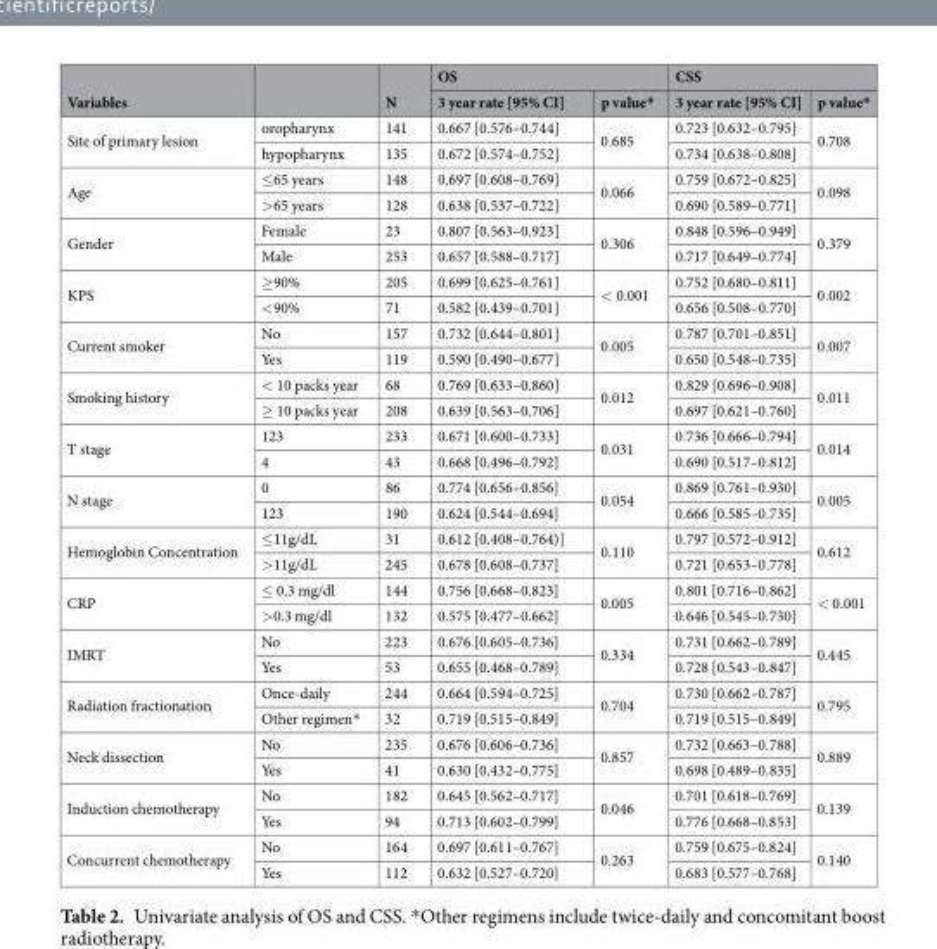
<table><thead><tr><td rowspan="2">Variables</td><td rowspan="2"></td><td rowspan="2">N</td><td colspan="2">OS</td><td colspan="2">CSS</td></tr><tr><td>3 year rate [95% CI]</td><td>p value*</td><td>3 year rate [95% CI]</td><td>p value*</td></tr></thead><tbody><tr><td rowspan="2">Site of primary lesion</td><td>oropharynx</td><td>141</td><td>0.667 [0.576–0.744]</td><td rowspan="2">0.685</td><td>0.723 [0.632–0.795]</td><td rowspan="2">0.708</td></tr><tr><td>hypopharynx</td><td>135</td><td>0.672 [0.574–0.752]</td><td>0.734 [0.638–0.808]</td></tr><tr><td rowspan="2">Age</td><td>≤65 years</td><td>148</td><td>0.697 [0.608–0.769]</td><td rowspan="2">0.066</td><td>0.759 [0.672–0.825]</td><td rowspan="2">0.098</td></tr><tr><td>&gt;65 years</td><td>128</td><td>0.638 [0.537–0.722]</td><td>0.690 [0.589–0.771]</td></tr><tr><td rowspan="2">Gender</td><td>Female</td><td>23</td><td>0.807 [0.563–0.923]</td><td rowspan="2">0.306</td><td>0.848 [0.596–0.949]</td><td rowspan="2">0.379</td></tr><tr><td>Male</td><td>253</td><td>0.657 [0.588–0.717]</td><td>0.717 [0.649–0.774]</td></tr><tr><td rowspan="2">KPS</td><td>≥90%</td><td>205</td><td>0.699 [0.625–0.761]</td><td rowspan="2">&lt; 0.001</td><td>0.752 [0.680–0.811]</td><td rowspan="2">0.002</td></tr><tr><td>&lt;90%</td><td>71</td><td>0.582 [0.439–0.701]</td><td>0.656 [0.508–0.770]</td></tr><tr><td rowspan="2">Current smoker</td><td>No</td><td>157</td><td>0.732 [0.644–0.801]</td><td rowspan="2">0.005</td><td>0.787 [0.701–0.851]</td><td rowspan="2">0.007</td></tr><tr><td>Yes</td><td>119</td><td>0.590 [0.490–0.677]</td><td>0.650 [0.548–0.735]</td></tr><tr><td rowspan="2">Smoking history</td><td>&lt; 10 packs year</td><td>68</td><td>0.769 [0.633–0.860]</td><td rowspan="2">0.012</td><td>0.829 [0.696–0.908]</td><td rowspan="2">0.011</td></tr><tr><td>≥ 10 packs year</td><td>208</td><td>0.639 [0.563–0.706]</td><td>0.697 [0.621–0.760]</td></tr><tr><td rowspan="2">T stage</td><td>123</td><td>233</td><td>0.671 [0.600–0.733]</td><td rowspan="2">0.031</td><td>0.736 [0.666–0.794]</td><td rowspan="2">0.014</td></tr><tr><td>4</td><td>43</td><td>0.668 [0.496–0.792]</td><td>0.690 [0.517–0.812]</td></tr><tr><td rowspan="2">N stage</td><td>0</td><td>86</td><td>0.774 [0.656–0.856]</td><td rowspan="2">0.054</td><td>0.869 [0.761–0.930]</td><td rowspan="2">0.005</td></tr><tr><td>123</td><td>190</td><td>0.624 [0.544–0.694]</td><td>0.666 [0.585–0.735]</td></tr><tr><td rowspan="2">Hemoglobin Concentration</td><td>≤11g/dL</td><td>31</td><td>0.612 [0.408–0.764)]</td><td rowspan="2">0.110</td><td>0.797 [0.572–0.912]</td><td rowspan="2">0.612</td></tr><tr><td>&gt;11g/dL</td><td>245</td><td>0.678 [0.608–0.737]</td><td>0.721 [0.653–0.778]</td></tr><tr><td rowspan="2">CRP</td><td>≤ 0.3 mg/dl</td><td>144</td><td>0.756 [0.668–0.823]</td><td rowspan="2">0.005</td><td>0.801 [0.716–0.862]</td><td rowspan="2">&lt; 0.001</td></tr><tr><td>&gt;0.3 mg/dl</td><td>132</td><td>0.575 [0.477–0.662]</td><td>0.646 [0.545–0.730]</td></tr><tr><td rowspan="2">IMRT</td><td>No</td><td>223</td><td>0.676 [0.605–0.736]</td><td rowspan="2">0.334</td><td>0.731 [0.662–0.789]</td><td rowspan="2">0.445</td></tr><tr><td>Yes</td><td>53</td><td>0.655 [0.468–0.789]</td><td>0.728 [0.543–0.847]</td></tr><tr><td rowspan="2">Radiation fractionation</td><td>Once-daily</td><td>244</td><td>0.664 [0.594–0.725]</td><td rowspan="2">0.704</td><td>0.730 [0.662–0.787]</td><td rowspan="2">0.795</td></tr><tr><td>Other regimen*</td><td>32</td><td>0.719 [0.515–0.849]</td><td>0.719 [0.515–0.849]</td></tr><tr><td rowspan="2">Neck dissection</td><td>No</td><td>235</td><td>0.676 [0.606–0.736]</td><td rowspan="2">0.857</td><td>0.732 [0.663–0.788]</td><td rowspan="2">0.889</td></tr><tr><td>Yes</td><td>41</td><td>0.630 [0.432–0.775]</td><td>0.698 [0.489–0.835]</td></tr><tr><td rowspan="2">Induction chemotherapy</td><td>No</td><td>182</td><td>0.645 [0.562–0.717]</td><td rowspan="2">0.046</td><td>0.701 [0.618–0.769]</td><td rowspan="2">0.139</td></tr><tr><td>Yes</td><td>94</td><td>0.713 [0.602–0.799]</td><td>0.776 [0.668–0.853]</td></tr><tr><td rowspan="2">Concurrent chemotherapy</td><td>No</td><td>164</td><td>0.697 [0.611–0.767]</td><td rowspan="2">0.263</td><td>0.759 [0.675–0.824]</td><td rowspan="2">0.140</td></tr><tr><td>Yes</td><td>112</td><td>0.632 [0.527–0.720]</td><td>0.683 [0.577–0.768]</td></tr></tbody></table>